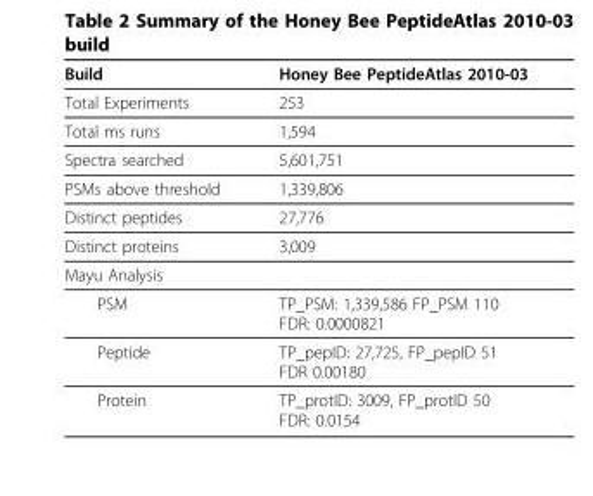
<table><thead><tr><td>Build</td><td>Honey Bee PeptideAtlas 2010-03</td></tr></thead><tbody><tr><td>Total Experiments</td><td>253</td></tr><tr><td>Total ms runs</td><td>1,594</td></tr><tr><td>Spectra searched</td><td>5,601,751</td></tr><tr><td>PSMs above threshold</td><td>1,339,806</td></tr><tr><td>Distinct peptides</td><td>27,776</td></tr><tr><td>Distinct proteins</td><td>3,009</td></tr><tr><td colspan="2">Mayu Analysis</td></tr><tr><td>PSM</td><td>TP_PSM: 1,339,586 FP_PSM 110 FDR: 0.0000821</td></tr><tr><td>Peptide</td><td>TP_pepID: 27,725, FP_pepID 51 FDR 0.00180</td></tr><tr><td>Protein</td><td>TP_protID: 3009, FP_protID 50 FDR: 0.0154</td></tr></tbody></table>